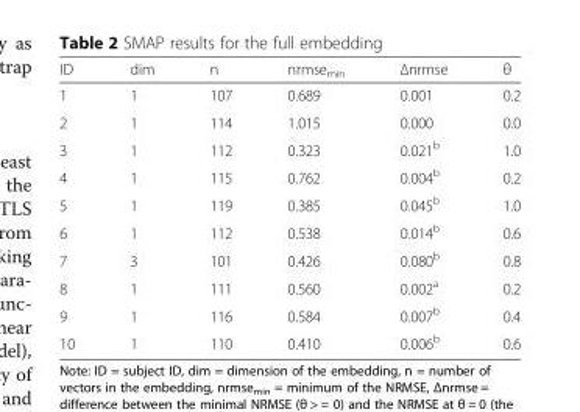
<table><thead><tr><td>ID</td><td>dim</td><td>n</td><td>nrmse<sub>min</sub></td><td>Δnrmse</td><td>θ</td></tr></thead><tbody><tr><td>1</td><td>1</td><td>107</td><td>0.689</td><td>0.001</td><td>0.2</td></tr><tr><td>2</td><td>1</td><td>114</td><td>1.015</td><td>0.000</td><td>0.0</td></tr><tr><td>3</td><td>1</td><td>112</td><td>0.323</td><td>0.021<sup>b</sup></td><td>1.0</td></tr><tr><td>4</td><td>1</td><td>115</td><td>0.762</td><td>0.004<sup>b</sup></td><td>0.2</td></tr><tr><td>5</td><td>1</td><td>119</td><td>0.385</td><td>0.045<sup>b</sup></td><td>1.0</td></tr><tr><td>6</td><td>1</td><td>112</td><td>0.538</td><td>0.014<sup>b</sup></td><td>0.6</td></tr><tr><td>7</td><td>3</td><td>101</td><td>0.426</td><td>0.080<sup>b</sup></td><td>0.8</td></tr><tr><td>8</td><td>1</td><td>111</td><td>0.560</td><td>0.002<sup>a</sup></td><td>0.2</td></tr><tr><td>9</td><td>1</td><td>116</td><td>0.584</td><td>0.007<sup>b</sup></td><td>0.4</td></tr><tr><td>10</td><td>1</td><td>110</td><td>0.410</td><td>0.006<sup>b</sup></td><td>0.6</td></tr></tbody></table>